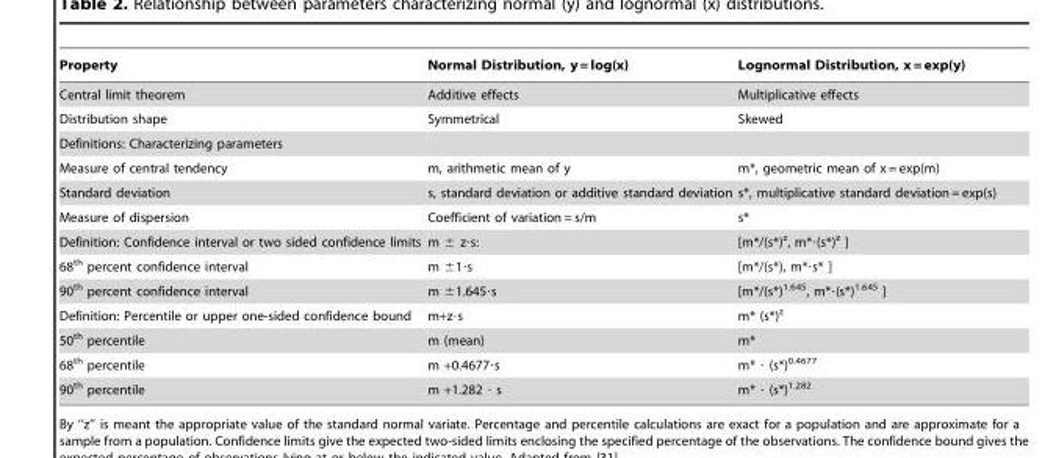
<table><thead><tr><td>Property</td><td>Normal Distribution, y = log(x)</td><td>Lognormal Distribution, x = exp(y)</td></tr></thead><tbody><tr><td>Central limit theorem</td><td>Additive effects</td><td>Multiplicative effects</td></tr><tr><td>Distribution shape</td><td>Symmetrical</td><td>Skewed</td></tr><tr><td colspan="3">Definitions: Characterizing parameters</td></tr><tr><td>Measure of central tendency</td><td>m, arithmetic mean of y</td><td>m*, geometric mean of x = exp(m)</td></tr><tr><td>Standard deviation</td><td>s, standard deviation or additive standard deviation</td><td>s*, multiplicative standard deviation = exp(s)</td></tr><tr><td>Measure of dispersion</td><td>Coefficient of variation = s/m</td><td>s*</td></tr><tr><td>Definition: Confidence interval or two sided confidence limits</td><td>m ± z·s:</td><td>[m*/(s*)<sup>z</sup>, m*·(s*)<sup>z</sup> ]</td></tr><tr><td>68<sup>th</sup> percent confidence interval</td><td>m ±1·s</td><td>[m*/(s*), m*·s* ]</td></tr><tr><td>90<sup>th</sup> percent confidence interval</td><td>m ±1.645·s</td><td>[m*/(s*)<sup>1.645</sup>, m*·(s*)<sup>1.645</sup> ]</td></tr><tr><td>Definition: Percentile or upper one-sided confidence bound</td><td>m+z·s</td><td>m* (s*)<sup>z</sup></td></tr><tr><td>50<sup>th</sup> percentile</td><td>m (mean)</td><td>m*</td></tr><tr><td>68<sup>th</sup> percentile</td><td>m +0.4677·s</td><td>m* · (s*)<sup>0.4677</sup></td></tr><tr><td>90<sup>th</sup> percentile</td><td>m +1.282 · s</td><td>m* · (s*)<sup>1.282</sup></td></tr></tbody></table>